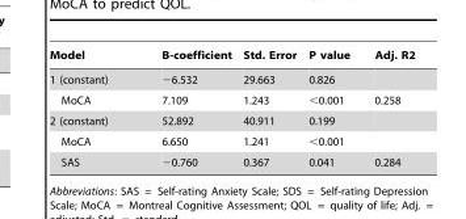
<table><thead><tr><td>Model</td><td>B-coefficient</td><td>Std. Error</td><td>P value</td><td>Adj. R2</td></tr></thead><tbody><tr><td>1 (constant)</td><td>−6.532</td><td>29.663</td><td>0.826</td><td></td></tr><tr><td>MoCA</td><td>7.109</td><td>1.243</td><td>&lt;0.001</td><td>0.258</td></tr><tr><td>2 (constant)</td><td>52.892</td><td>40.911</td><td>0.199</td><td></td></tr><tr><td>MoCA</td><td>6.650</td><td>1.241</td><td>&lt;0.001</td><td></td></tr><tr><td>SAS</td><td>−0.760</td><td>0.367</td><td>0.041</td><td>0.284</td></tr></tbody></table>